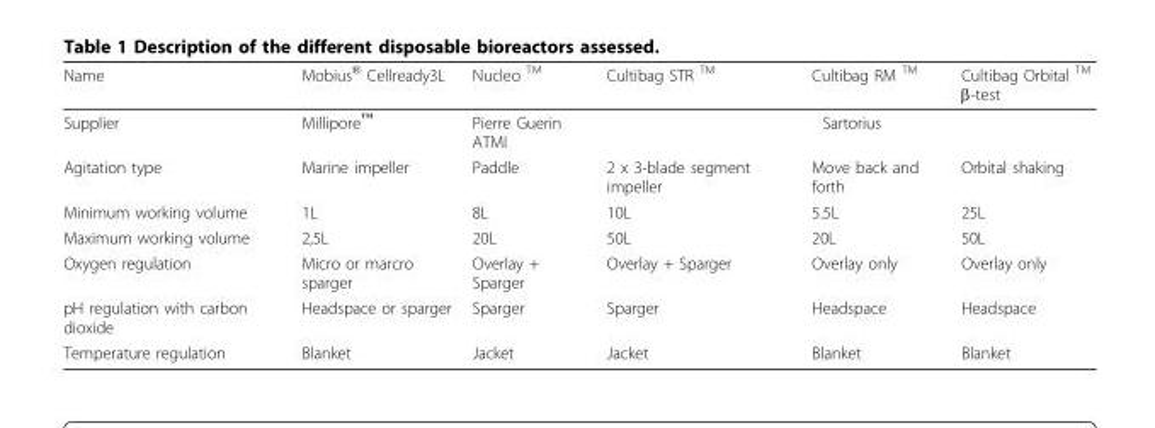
<table><thead><tr><td>Name</td><td>Mobius<sup>®</sup> Cellready3L</td><td>Nucleo <sup>TM</sup></td><td>Cultibag STR <sup>TM</sup></td><td>Cultibag RM <sup>TM</sup></td><td>Cultibag Orbital <sup>TM</sup> β-test</td></tr></thead><tbody><tr><td>Supplier</td><td>Millipore<sup>™</sup></td><td>Pierre Guerin ATMI</td><td colspan="3">Sartorius</td></tr><tr><td>Agitation type</td><td>Marine impeller</td><td>Paddle</td><td>2 x 3-blade segment impeller</td><td>Move back and forth</td><td>Orbital shaking</td></tr><tr><td>Minimum working volume</td><td>1L</td><td>8L</td><td>10L</td><td>5.5L</td><td>25L</td></tr><tr><td>Maximum working volume</td><td>2,5L</td><td>20L</td><td>50L</td><td>20L</td><td>50L</td></tr><tr><td>Oxygen regulation</td><td>Micro or marcro sparger</td><td>Overlay + Sparger</td><td>Overlay + Sparger</td><td>Overlay only</td><td>Overlay only</td></tr><tr><td>pH regulation with carbon dioxide</td><td>Headspace or sparger</td><td>Sparger</td><td>Sparger</td><td>Headspace</td><td>Headspace</td></tr><tr><td>Temperature regulation</td><td>Blanket</td><td>Jacket</td><td>Jacket</td><td>Blanket</td><td>Blanket</td></tr></tbody></table>